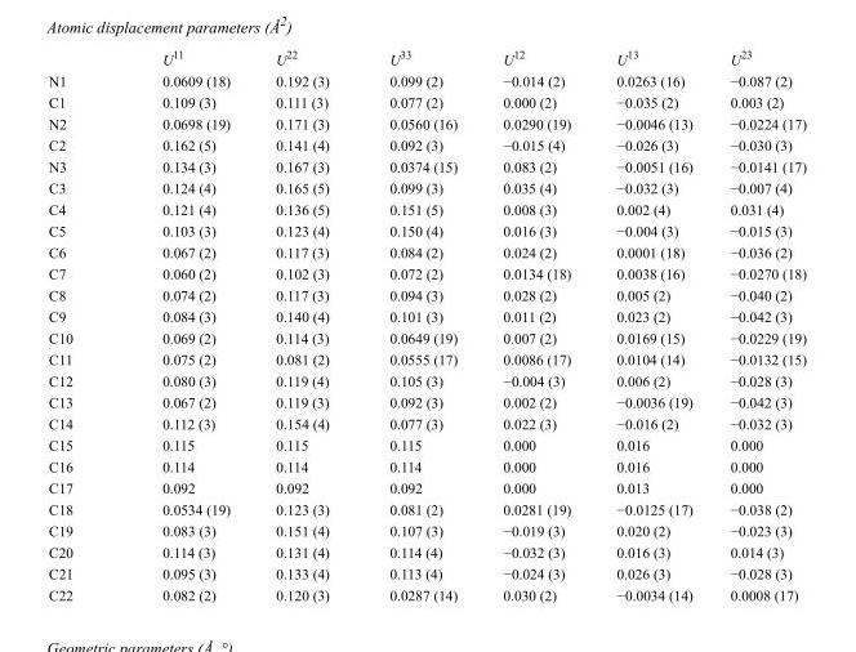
<table><thead><tr><td></td><td>U<sup>11</sup></td><td>U<sup>22</sup></td><td>U<sup>33</sup></td><td>U<sup>12</sup></td><td>U<sup>13</sup></td><td>U<sup>23</sup></td></tr></thead><tbody><tr><td>N1</td><td>0.0609 (18)</td><td>0.192 (3)</td><td>0.099 (2)</td><td>−0.014 (2)</td><td>0.0263 (16)</td><td>−0.087 (2)</td></tr><tr><td>C1</td><td>0.109 (3)</td><td>0.111 (3)</td><td>0.077 (2)</td><td>0.000 (2)</td><td>−0.035 (2)</td><td>0.003 (2)</td></tr><tr><td>N2</td><td>0.0698 (19)</td><td>0.171 (3)</td><td>0.0560 (16)</td><td>0.0290 (19)</td><td>−0.0046 (13)</td><td>−0.0224 (17)</td></tr><tr><td>C2</td><td>0.162 (5)</td><td>0.141 (4)</td><td>0.092 (3)</td><td>−0.015 (4)</td><td>−0.026 (3)</td><td>−0.030 (3)</td></tr><tr><td>N3</td><td>0.134 (3)</td><td>0.167 (3)</td><td>0.0374 (15)</td><td>0.083 (2)</td><td>−0.0051 (16)</td><td>−0.0141 (17)</td></tr><tr><td>C3</td><td>0.124 (4)</td><td>0.165 (5)</td><td>0.099 (3)</td><td>0.035 (4)</td><td>−0.032 (3)</td><td>−0.007 (4)</td></tr><tr><td>C4</td><td>0.121 (4)</td><td>0.136 (5)</td><td>0.151 (5)</td><td>0.008 (3)</td><td>0.002 (4)</td><td>0.031 (4)</td></tr><tr><td>C5</td><td>0.103 (3)</td><td>0.123 (4)</td><td>0.150 (4)</td><td>0.016 (3)</td><td>−0.004 (3)</td><td>−0.015 (3)</td></tr><tr><td>C6</td><td>0.067 (2)</td><td>0.117 (3)</td><td>0.084 (2)</td><td>0.024 (2)</td><td>0.0001 (18)</td><td>−0.036 (2)</td></tr><tr><td>C7</td><td>0.060 (2)</td><td>0.102 (3)</td><td>0.072 (2)</td><td>0.0134 (18)</td><td>0.0038 (16)</td><td>−0.0270 (18)</td></tr><tr><td>C8</td><td>0.074 (2)</td><td>0.117 (3)</td><td>0.094 (3)</td><td>0.028 (2)</td><td>0.005 (2)</td><td>−0.040 (2)</td></tr><tr><td>C9</td><td>0.084 (3)</td><td>0.140 (4)</td><td>0.101 (3)</td><td>0.011 (2)</td><td>0.023 (2)</td><td>−0.042 (3)</td></tr><tr><td>C10</td><td>0.069 (2)</td><td>0.114 (3)</td><td>0.0649 (19)</td><td>0.007 (2)</td><td>0.0169 (15)</td><td>−0.0229 (19)</td></tr><tr><td>C11</td><td>0.075 (2)</td><td>0.081 (2)</td><td>0.0555 (17)</td><td>0.0086 (17)</td><td>0.0104 (14)</td><td>−0.0132 (15)</td></tr><tr><td>C12</td><td>0.080 (3)</td><td>0.119 (4)</td><td>0.105 (3)</td><td>−0.004 (3)</td><td>0.006 (2)</td><td>−0.028 (3)</td></tr><tr><td>C13</td><td>0.067 (2)</td><td>0.119 (3)</td><td>0.092 (3)</td><td>0.002 (2)</td><td>−0.0036 (19)</td><td>−0.042 (3)</td></tr><tr><td>C14</td><td>0.112 (3)</td><td>0.154 (4)</td><td>0.077 (3)</td><td>0.022 (3)</td><td>−0.016 (2)</td><td>−0.032 (3)</td></tr><tr><td>C15</td><td>0.115</td><td>0.115</td><td>0.115</td><td>0.000</td><td>0.016</td><td>0.000</td></tr><tr><td>C16</td><td>0.114</td><td>0.114</td><td>0.114</td><td>0.000</td><td>0.016</td><td>0.000</td></tr><tr><td>C17</td><td>0.092</td><td>0.092</td><td>0.092</td><td>0.000</td><td>0.013</td><td>0.000</td></tr><tr><td>C18</td><td>0.0534 (19)</td><td>0.123 (3)</td><td>0.081 (2)</td><td>0.0281 (19)</td><td>−0.0125 (17)</td><td>−0.038 (2)</td></tr><tr><td>C19</td><td>0.083 (3)</td><td>0.151 (4)</td><td>0.107 (3)</td><td>−0.019 (3)</td><td>0.020 (2)</td><td>−0.023 (3)</td></tr><tr><td>C20</td><td>0.114 (3)</td><td>0.131 (4)</td><td>0.114 (4)</td><td>−0.032 (3)</td><td>0.016 (3)</td><td>0.014 (3)</td></tr><tr><td>C21</td><td>0.095 (3)</td><td>0.133 (4)</td><td>0.113 (4)</td><td>−0.024 (3)</td><td>0.026 (3)</td><td>−0.028 (3)</td></tr><tr><td>C22</td><td>0.082 (2)</td><td>0.120 (3)</td><td>0.0287 (14)</td><td>0.030 (2)</td><td>−0.0034 (14)</td><td>0.0008 (17)</td></tr></tbody></table>